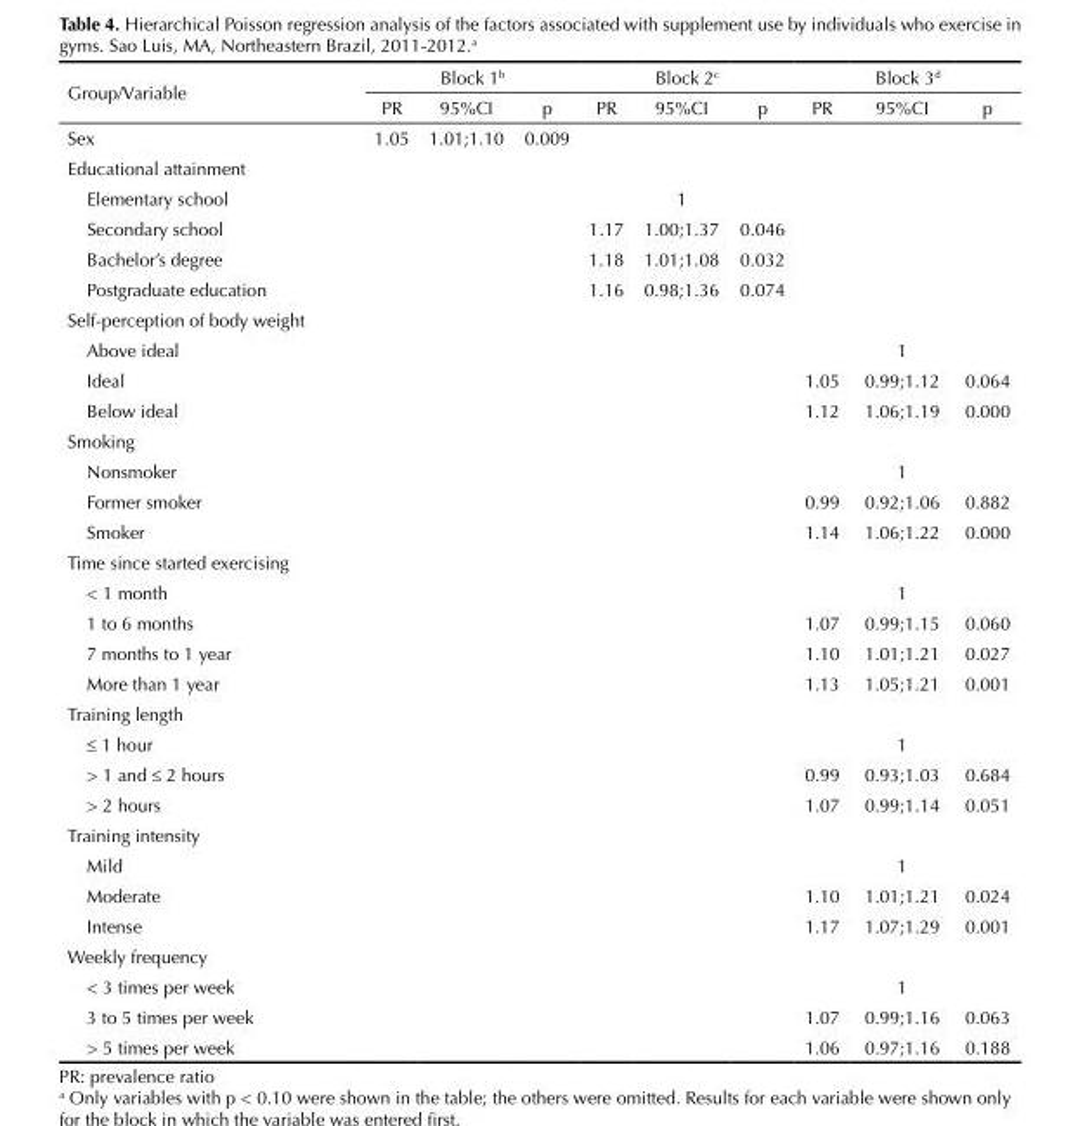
<table><thead><tr><td rowspan="2">Group/Variable</td><td colspan="3">Block 1<sup>b</sup></td><td colspan="3">Block 2<sup>c</sup></td><td colspan="3">Block 3<sup>d</sup></td></tr><tr><td>PR</td><td>95%CI</td><td>p</td><td>PR</td><td>95%CI</td><td>p</td><td>PR</td><td>95%CI</td><td>p</td></tr></thead><tbody><tr><td>Sex</td><td>1.05</td><td>1.01;1.10</td><td>0.009</td><td></td><td></td><td></td><td></td><td></td><td></td></tr><tr><td colspan="10">Educational attainment</td></tr><tr><td>Elementary school</td><td></td><td></td><td></td><td></td><td>1</td><td></td><td></td><td></td><td></td></tr><tr><td>Secondary school</td><td></td><td></td><td></td><td>1.17</td><td>1.00;1.37</td><td>0.046</td><td></td><td></td><td></td></tr><tr><td>Bachelor’s degree</td><td></td><td></td><td></td><td>1.18</td><td>1.01;1.08</td><td>0.032</td><td></td><td></td><td></td></tr><tr><td>Postgraduate education</td><td></td><td></td><td></td><td>1.16</td><td>0.98;1.36</td><td>0.074</td><td></td><td></td><td></td></tr><tr><td colspan="10">Self-perception of body weight</td></tr><tr><td>Above ideal</td><td></td><td></td><td></td><td></td><td></td><td></td><td></td><td>1</td><td></td></tr><tr><td>Ideal</td><td></td><td></td><td></td><td></td><td></td><td></td><td>1.05</td><td>0.99;1.12</td><td>0.064</td></tr><tr><td>Below ideal</td><td></td><td></td><td></td><td></td><td></td><td></td><td>1.12</td><td>1.06;1.19</td><td>0.000</td></tr><tr><td colspan="10">Smoking</td></tr><tr><td>Nonsmoker</td><td></td><td></td><td></td><td></td><td></td><td></td><td></td><td>1</td><td></td></tr><tr><td>Former smoker</td><td></td><td></td><td></td><td></td><td></td><td></td><td>0.99</td><td>0.92;1.06</td><td>0.882</td></tr><tr><td>Smoker</td><td></td><td></td><td></td><td></td><td></td><td></td><td>1.14</td><td>1.06;1.22</td><td>0.000</td></tr><tr><td colspan="10">Time since started exercising</td></tr><tr><td>&lt; 1 month</td><td></td><td></td><td></td><td></td><td></td><td></td><td></td><td>1</td><td></td></tr><tr><td>1 to 6 months</td><td></td><td></td><td></td><td></td><td></td><td></td><td>1.07</td><td>0.99;1.15</td><td>0.060</td></tr><tr><td>7 months to 1 year</td><td></td><td></td><td></td><td></td><td></td><td></td><td>1.10</td><td>1.01;1.21</td><td>0.027</td></tr><tr><td>More than 1 year</td><td></td><td></td><td></td><td></td><td></td><td></td><td>1.13</td><td>1.05;1.21</td><td>0.001</td></tr><tr><td colspan="10">Training length</td></tr><tr><td>≤ 1 hour</td><td></td><td></td><td></td><td></td><td></td><td></td><td></td><td>1</td><td></td></tr><tr><td>&gt; 1 and ≤ 2 hours</td><td></td><td></td><td></td><td></td><td></td><td></td><td>0.99</td><td>0.93;1.03</td><td>0.684</td></tr><tr><td>&gt; 2 hours</td><td></td><td></td><td></td><td></td><td></td><td></td><td>1.07</td><td>0.99;1.14</td><td>0.051</td></tr><tr><td colspan="10">Training intensity</td></tr><tr><td>Mild</td><td></td><td></td><td></td><td></td><td></td><td></td><td></td><td>1</td><td></td></tr><tr><td>Moderate</td><td></td><td></td><td></td><td></td><td></td><td></td><td>1.10</td><td>1.01;1.21</td><td>0.024</td></tr><tr><td>Intense</td><td></td><td></td><td></td><td></td><td></td><td></td><td>1.17</td><td>1.07;1.29</td><td>0.001</td></tr><tr><td colspan="10">Weekly frequency</td></tr><tr><td>&lt; 3 times per week</td><td></td><td></td><td></td><td></td><td></td><td></td><td></td><td>1</td><td></td></tr><tr><td>3 to 5 times per week</td><td></td><td></td><td></td><td></td><td></td><td></td><td>1.07</td><td>0.99;1.16</td><td>0.063</td></tr><tr><td>&gt; 5 times per week</td><td></td><td></td><td></td><td></td><td></td><td></td><td>1.06</td><td>0.97;1.16</td><td>0.188</td></tr></tbody></table>